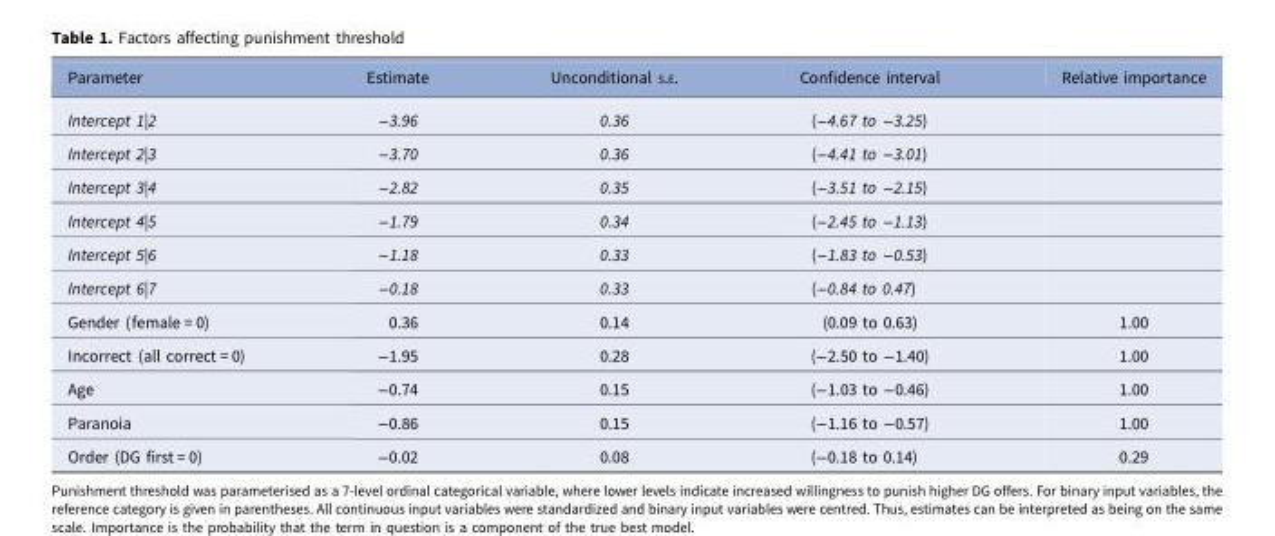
<table><thead><tr><td>Parameter</td><td>Estimate</td><td>Unconditional S.E.</td><td>Confidence interval</td><td>Relative importance</td></tr></thead><tbody><tr><td>Intercept 1|2</td><td>−3.96</td><td>0.36</td><td>(−4.67 to −3.25)</td><td></td></tr><tr><td>Intercept 2|3</td><td>−3.70</td><td>0.36</td><td>(−4.41 to −3.01)</td><td></td></tr><tr><td>Intercept 3|4</td><td>−2.82</td><td>0.35</td><td>(−3.51 to −2.15)</td><td></td></tr><tr><td>Intercept 4|5</td><td>−1.79</td><td>0.34</td><td>(−2.45 to −1.13)</td><td></td></tr><tr><td>Intercept 5|6</td><td>−1.18</td><td>0.33</td><td>(−1.83 to −0.53)</td><td></td></tr><tr><td>Intercept 6|7</td><td>−0.18</td><td>0.33</td><td>(−0.84 to 0.47)</td><td></td></tr><tr><td>Gender (female = 0)</td><td>0.36</td><td>0.14</td><td>(0.09 to 0.63)</td><td>1.00</td></tr><tr><td>Incorrect (all correct = 0)</td><td>−1.95</td><td>0.28</td><td>(−2.50 to −1.40)</td><td>1.00</td></tr><tr><td>Age</td><td>−0.74</td><td>0.15</td><td>(−1.03 to −0.46)</td><td>1.00</td></tr><tr><td>Paranoia</td><td>−0.86</td><td>0.15</td><td>(−1.16 to −0.57)</td><td>1.00</td></tr><tr><td>Order (DG first = 0)</td><td>−0.02</td><td>0.08</td><td>(−0.18 to 0.14)</td><td>0.29</td></tr></tbody></table>